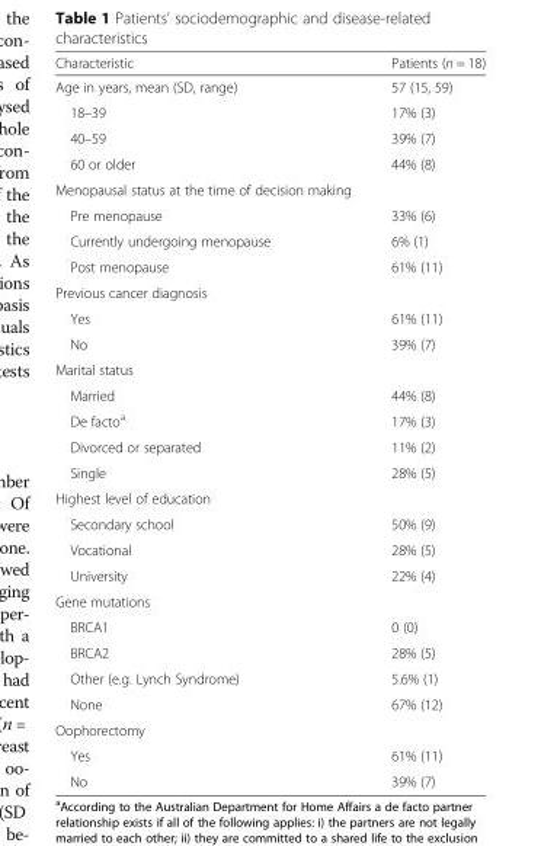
<table><thead><tr><td>Characteristic</td><td>Patients (n = 18)</td></tr></thead><tbody><tr><td>Age in years, mean (SD, range)</td><td>57 (15, 59)</td></tr><tr><td>18–39</td><td>17% (3)</td></tr><tr><td>40–59</td><td>39% (7)</td></tr><tr><td>60 or older</td><td>44% (8)</td></tr><tr><td colspan="2">Menopausal status at the time of decision making</td></tr><tr><td>Pre menopause</td><td>33% (6)</td></tr><tr><td>Currently undergoing menopause</td><td>6% (1)</td></tr><tr><td>Post menopause</td><td>61% (11)</td></tr><tr><td colspan="2">Previous cancer diagnosis</td></tr><tr><td>Yes</td><td>61% (11)</td></tr><tr><td>No</td><td>39% (7)</td></tr><tr><td colspan="2">Marital status</td></tr><tr><td>Married</td><td>44% (8)</td></tr><tr><td>De facto<sup>a</sup></td><td>17% (3)</td></tr><tr><td>Divorced or separated</td><td>11% (2)</td></tr><tr><td>Single</td><td>28% (5)</td></tr><tr><td colspan="2">Highest level of education</td></tr><tr><td>Secondary school</td><td>50% (9)</td></tr><tr><td>Vocational</td><td>28% (5)</td></tr><tr><td>University</td><td>22% (4)</td></tr><tr><td colspan="2">Gene mutations</td></tr><tr><td>BRCA1</td><td>0 (0)</td></tr><tr><td>BRCA2</td><td>28% (5)</td></tr><tr><td>Other (e.g. Lynch Syndrome)</td><td>5.6% (1)</td></tr><tr><td>None</td><td>67% (12)</td></tr><tr><td colspan="2">Oophorectomy</td></tr><tr><td>Yes</td><td>61% (11)</td></tr><tr><td>No</td><td>39% (7)</td></tr></tbody></table>